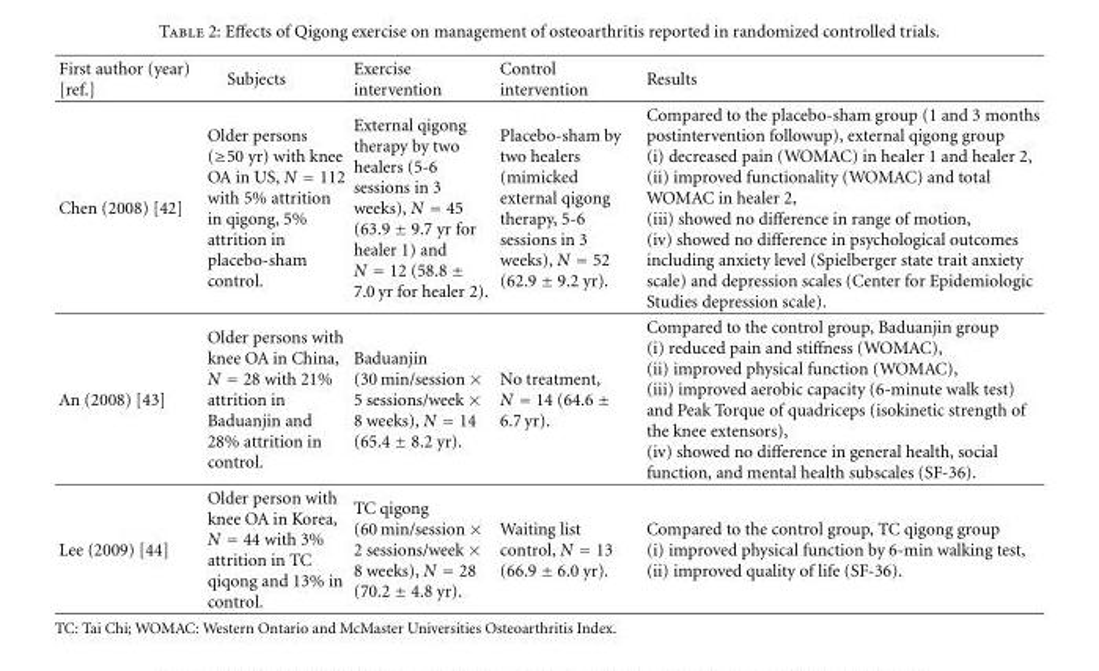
<table><thead><tr><td>First author (year) [ref.]</td><td>Subjects</td><td>Exercise intervention</td><td>Control intervention</td><td>Results</td></tr></thead><tbody><tr><td>Chen (2008) [42]</td><td>Older persons (≥50 yr) with knee OA in US, N = 112 with 5% attrition in qigong, 5% attrition in placebo-sham control.</td><td>External qigong therapy by two healers (5-6 sessions in 3 weeks), N = 45 (63.9 ± 9.7 yr for healer 1) and N = 12 (58.8 ± 7.0 yr for healer 2).</td><td>Placebo-sham by two healers (mimicked external qigong therapy, 5-6 sessions in 3 weeks), N = 52 (62.9 ± 9.2 yr).</td><td>Compared to the placebo-sham group (1 and 3 months postintervention followup), external qigong group (i) decreased pain (WOMAC) in healer 1 and healer 2, (ii) improved functionality (WOMAC) and total WOMAC in healer 2, (iii) showed no difference in range of motion, (iv) showed no difference in psychological outcomes including anxiety level (Spielberger state trait anxiety scale) and depression scales (Center for Epidemiologic Studies depression scale).</td></tr><tr><td>An (2008) [43]</td><td>Older persons with knee OA in China, N = 28 with 21% attrition in Baduanjin and 28% attrition in control.</td><td>Baduanjin (30 min/session × 5 sessions/week × 8 weeks), N = 14 (65.4 ± 8.2 yr).</td><td>No treatment, N = 14 (64.6 ± 6.7 yr).</td><td>Compared to the control group, Baduanjin group (i) reduced pain and stiffness (WOMAC), (ii) improved physical function (WOMAC), (iii) improved aerobic capacity (6-minute walk test) and Peak Torque of quadriceps (isokinetic strength of the knee extensors), (iv) showed no difference in general health, social function, and mental health subscales (SF-36).</td></tr><tr><td>Lee (2009) [44]</td><td>Older person with knee OA in Korea, N = 44 with 3% attrition in TC qiqong and 13% in control.</td><td>TC qigong (60 min/session × 2 sessions/week × 8 weeks), N = 28 (70.2 ± 4.8 yr).</td><td>Waiting list control, N = 13 (66.9 ± 6.0 yr).</td><td>Compared to the control group, TC qigong group (i) improved physical function by 6-min walking test, (ii) improved quality of life (SF-36).</td></tr></tbody></table>